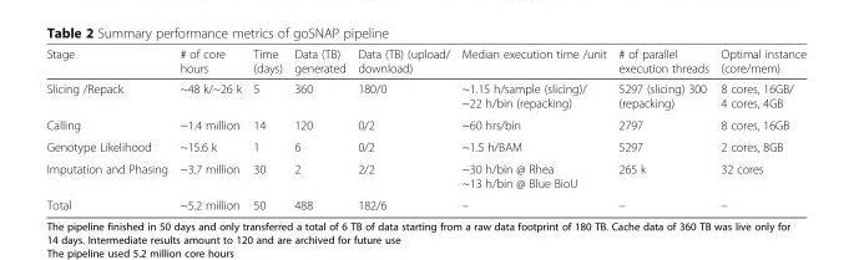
<table><thead><tr><td>Stage</td><td># of core hours</td><td>Time (days)</td><td>Data (TB) generated</td><td>Data (TB) (upload/ download)</td><td>Median execution time /unit</td><td># of parallel execution threads</td><td>Optimal instance (core/mem)</td></tr></thead><tbody><tr><td>Slicing /Repack</td><td>~48 k/~26 k</td><td>5</td><td>360</td><td>180/0</td><td>~1.15 h/sample (slicing)/ ~22 h/bin (repacking)</td><td>5297 (slicing) 300 (repacking)</td><td>8 cores, 16GB/ 4 cores, 4GB</td></tr><tr><td>Calling</td><td>~1.4 million</td><td>14</td><td>120</td><td>0/2</td><td>~60 hrs/bin</td><td>2797</td><td>8 cores, 16GB</td></tr><tr><td>Genotype Likelihood</td><td>~15.6 k</td><td>1</td><td>6</td><td>0/2</td><td>~1.5 h/BAM</td><td>5297</td><td>2 cores, 8GB</td></tr><tr><td>Imputation and Phasing</td><td>~3.7 million</td><td>30</td><td>2</td><td>2/2</td><td>~30 h/bin @ Rhea ~13 h/bin @ Blue BioU</td><td>265 k</td><td>32 cores</td></tr><tr><td>Total</td><td>~5.2 million</td><td>50</td><td>488</td><td>182/6</td><td>–</td><td>–</td><td>–</td></tr></tbody></table>